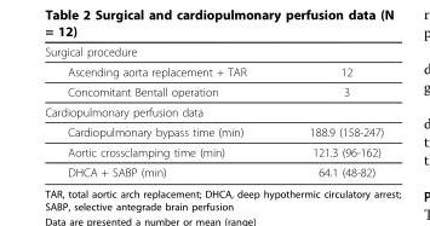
<table><thead><tr><td>Surgical procedure</td><td></td></tr></thead><tbody><tr><td>Ascending aorta replacement + TAR</td><td>12</td></tr><tr><td>Concomitant Bentall operation</td><td>3</td></tr><tr><td colspan="2">Cardiopulmonary perfusion data</td></tr><tr><td>Cardiopulmonary bypass time (min)</td><td>188.9 (158-247)</td></tr><tr><td>Aortic crossclamping time (min)</td><td>121.3 (96-162)</td></tr><tr><td>DHCA + SABP (min)</td><td>64.1 (48-82)</td></tr></tbody></table>